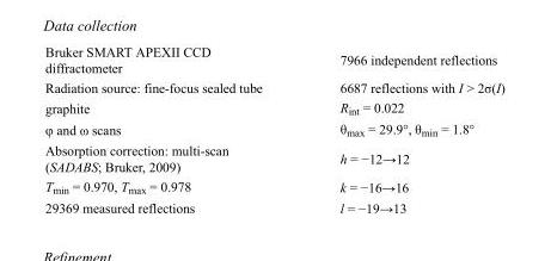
<table><tbody><tr><td>Bruker SMART APEXII CCD diffractometer</td><td>7966 independent reflections</td></tr><tr><td>Radiation source: fine-focus sealed tube</td><td>6687 reflections with I &gt; 2σ(I)</td></tr><tr><td>graphite</td><td>R<sub>int</sub> = 0.022</td></tr><tr><td>φ and ω scans</td><td>θ<sub>max</sub> = 29.9°, θ<sub>min</sub> = 1.8°</td></tr><tr><td>Absorption correction: multi-scan (SADABS; Bruker, 2009)</td><td>h = −12→12</td></tr><tr><td>T<sub>min</sub> = 0.970, T<sub>max</sub> = 0.978</td><td>k = −16→16</td></tr><tr><td>29369 measured reflections</td><td>l = −19→13</td></tr></tbody></table>